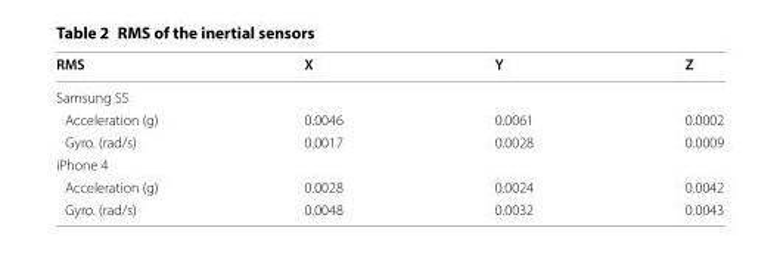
<table><thead><tr><td>RMS</td><td>X</td><td>Y</td><td>Z</td></tr></thead><tbody><tr><td colspan="4">Samsung S5</td></tr><tr><td>Acceleration (g)</td><td>0.0046</td><td>0.0061</td><td>0.0002</td></tr><tr><td>Gyro. (rad/s)</td><td>0.0017</td><td>0.0028</td><td>0.0009</td></tr><tr><td colspan="4">iPhone 4</td></tr><tr><td>Acceleration (g)</td><td>0.0028</td><td>0.0024</td><td>0.0042</td></tr><tr><td>Gyro. (rad/s)</td><td>0.0048</td><td>0.0032</td><td>0.0043</td></tr></tbody></table>